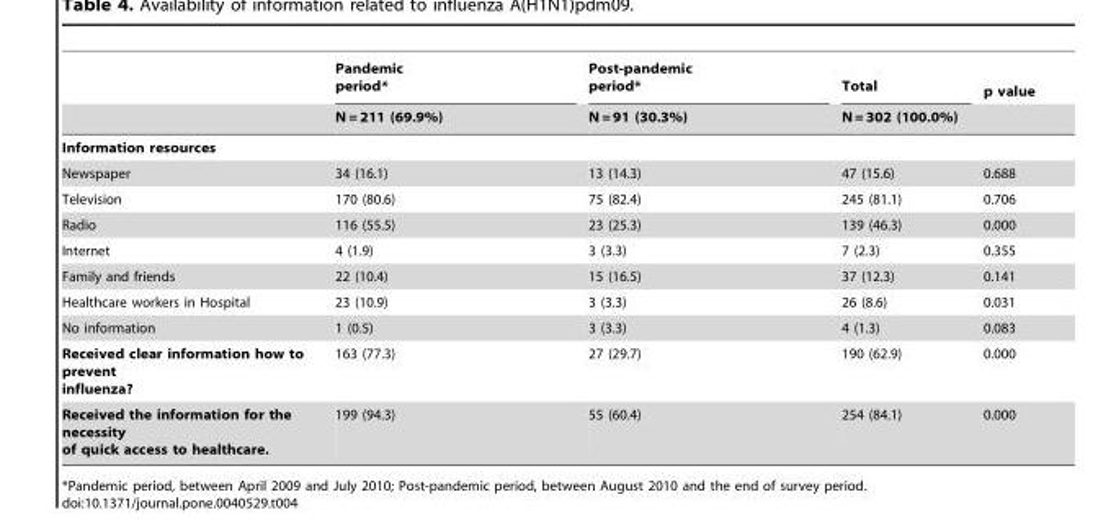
<table><thead><tr><td rowspan="2"></td><td rowspan="2">Pandemic period* N = 211 (69.9%)</td><td rowspan="2">Post-pandemic period* N = 91 (30.3%)</td><td rowspan="2">Total N = 302 (100.0%)</td><td rowspan="2">p value</td></tr><tr></tr></thead><tbody><tr><td colspan="5">Information resources</td></tr><tr><td>Newspaper</td><td>34 (16.1)</td><td>13 (14.3)</td><td>47 (15.6)</td><td>0.688</td></tr><tr><td>Television</td><td>170 (80.6)</td><td>75 (82.4)</td><td>245 (81.1)</td><td>0.706</td></tr><tr><td>Radio</td><td>116 (55.5)</td><td>23 (25.3)</td><td>139 (46.3)</td><td>0.000</td></tr><tr><td>Internet</td><td>4 (1.9)</td><td>3 (3.3)</td><td>7 (2.3)</td><td>0.355</td></tr><tr><td>Family and friends</td><td>22 (10.4)</td><td>15 (16.5)</td><td>37 (12.3)</td><td>0.141</td></tr><tr><td>Healthcare workers in Hospital</td><td>23 (10.9)</td><td>3 (3.3)</td><td>26 (8.6)</td><td>0.031</td></tr><tr><td>No information</td><td>1 (0.5)</td><td>3 (3.3)</td><td>4 (1.3)</td><td>0.083</td></tr><tr><td>Received clear information how to prevent influenza?</td><td>163 (77.3)</td><td>27 (29.7)</td><td>190 (62.9)</td><td>0.000</td></tr><tr><td>Received the information for the necessity of quick access to healthcare.</td><td>199 (94.3)</td><td>55 (60.4)</td><td>254 (84.1)</td><td>0.000</td></tr></tbody></table>